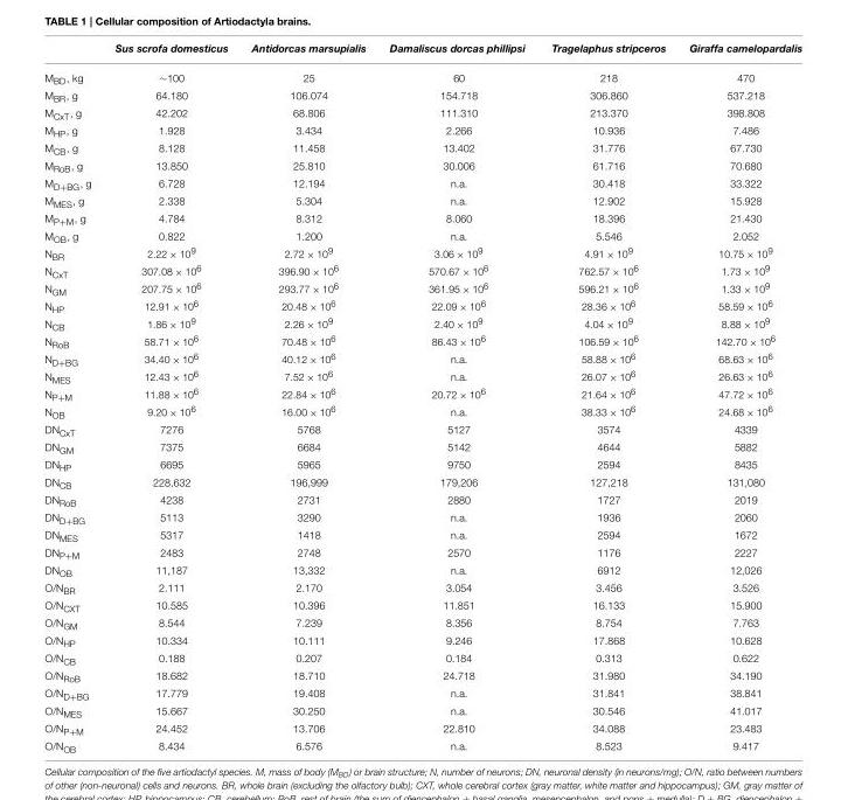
<table><thead><tr><td></td><td>Sus scrofa domesticus</td><td>Antidorcas marsupialis</td><td>Damaliscus dorcas phillipsi</td><td>Tragelaphus stripceros</td><td>Giraffa camelopardalis</td></tr></thead><tbody><tr><td>M<sub>BD</sub>, kg</td><td>∼100</td><td>25</td><td>60</td><td>218</td><td>470</td></tr><tr><td>M<sub>BR</sub>, g</td><td>64.180</td><td>106.074</td><td>154.718</td><td>306.860</td><td>537.218</td></tr><tr><td>M<sub>CxT</sub>, g</td><td>42.202</td><td>68.806</td><td>111.310</td><td>213.370</td><td>398.808</td></tr><tr><td>M<sub>HP</sub>, g</td><td>1.928</td><td>3.434</td><td>2.266</td><td>10.936</td><td>7.486</td></tr><tr><td>M<sub>CB</sub>, g</td><td>8.128</td><td>11.458</td><td>13.402</td><td>31.776</td><td>67.730</td></tr><tr><td>M<sub>RoB</sub>, g</td><td>13.850</td><td>25.810</td><td>30.006</td><td>61.716</td><td>70.680</td></tr><tr><td>M<sub>D+BG</sub>, g</td><td>6.728</td><td>12.194</td><td>n.a.</td><td>30.418</td><td>33.322</td></tr><tr><td>M<sub>MES</sub>, g</td><td>2.338</td><td>5.304</td><td>n.a.</td><td>12.902</td><td>15.928</td></tr><tr><td>M<sub>P+M</sub>, g</td><td>4.784</td><td>8.312</td><td>8.060</td><td>18.396</td><td>21.430</td></tr><tr><td>M<sub>OB</sub>, g</td><td>0.822</td><td>1.200</td><td>n.a.</td><td>5.546</td><td>2.052</td></tr><tr><td>N<sub>BR</sub></td><td>2.22 × 10<sup>9</sup></td><td>2.72 × 10<sup>9</sup></td><td>3.06 × 10<sup>9</sup></td><td>4.91 × 10<sup>9</sup></td><td>10.75 × 10<sup>9</sup></td></tr><tr><td>N<sub>CxT</sub></td><td>307.08 × 10<sup>6</sup></td><td>396.90 × 10<sup>6</sup></td><td>570.67 × 10<sup>6</sup></td><td>762.57 × 10<sup>6</sup></td><td>1.73 × 10<sup>9</sup></td></tr><tr><td>N<sub>GM</sub></td><td>207.75 × 10<sup>6</sup></td><td>293.77 × 10<sup>6</sup></td><td>361.95 × 10<sup>6</sup></td><td>596.21 × 10<sup>6</sup></td><td>1.33 × 10<sup>9</sup></td></tr><tr><td>N<sub>HP</sub></td><td>12.91 × 10<sup>6</sup></td><td>20.48 × 10<sup>6</sup></td><td>22.09 × 10<sup>6</sup></td><td>28.36 × 10<sup>6</sup></td><td>58.59 × 10<sup>6</sup></td></tr><tr><td>N<sub>CB</sub></td><td>1.86 × 10<sup>9</sup></td><td>2.26 × 10<sup>9</sup></td><td>2.40 × 10<sup>9</sup></td><td>4.04 × 10<sup>9</sup></td><td>8.88 × 10<sup>9</sup></td></tr><tr><td>N<sub>RoB</sub></td><td>58.71 × 10<sup>6</sup></td><td>70.48 × 10<sup>6</sup></td><td>86.43 × 10<sup>6</sup></td><td>106.59 × 10<sup>6</sup></td><td>142.70 × 10<sup>6</sup></td></tr><tr><td>N<sub>D+BG</sub></td><td>34.40 × 10<sup>6</sup></td><td>40.12 × 10<sup>6</sup></td><td>n.a.</td><td>58.88 × 10<sup>6</sup></td><td>68.63 × 10<sup>6</sup></td></tr><tr><td>N<sub>MES</sub></td><td>12.43 × 10<sup>6</sup></td><td>7.52 × 10<sup>6</sup></td><td>n.a.</td><td>26.07 × 10<sup>6</sup></td><td>26.63 × 10<sup>6</sup></td></tr><tr><td>N<sub>P+M</sub></td><td>11.88 × 10<sup>6</sup></td><td>22.84 × 10<sup>6</sup></td><td>20.72 × 10<sup>6</sup></td><td>21.64 × 10<sup>6</sup></td><td>47.72 × 10<sup>6</sup></td></tr><tr><td>N<sub>OB</sub></td><td>9.20 × 10<sup>6</sup></td><td>16.00 × 10<sup>6</sup></td><td>n.a.</td><td>38.33 × 10<sup>6</sup></td><td>24.68 × 10<sup>6</sup></td></tr><tr><td>DN<sub>CxT</sub></td><td>7276</td><td>5768</td><td>5127</td><td>3574</td><td>4339</td></tr><tr><td>DN<sub>GM</sub></td><td>7375</td><td>6684</td><td>5142</td><td>4644</td><td>5882</td></tr><tr><td>DN<sub>HP</sub></td><td>6695</td><td>5965</td><td>9750</td><td>2594</td><td>8435</td></tr><tr><td>DN<sub>CB</sub></td><td>228,632</td><td>196,999</td><td>179,206</td><td>127,218</td><td>131,080</td></tr><tr><td>DN<sub>RoB</sub></td><td>4238</td><td>2731</td><td>2880</td><td>1727</td><td>2019</td></tr><tr><td>DN<sub>D+BG</sub></td><td>5113</td><td>3290</td><td>n.a.</td><td>1936</td><td>2060</td></tr><tr><td>DN<sub>MES</sub></td><td>5317</td><td>1418</td><td>n.a.</td><td>2594</td><td>1672</td></tr><tr><td>DN<sub>P+M</sub></td><td>2483</td><td>2748</td><td>2570</td><td>1176</td><td>2227</td></tr><tr><td>DN<sub>OB</sub></td><td>11,187</td><td>13,332</td><td>n.a.</td><td>6912</td><td>12,026</td></tr><tr><td>O/N<sub>BR</sub></td><td>2.111</td><td>2.170</td><td>3.054</td><td>3.456</td><td>3.526</td></tr><tr><td>O/N<sub>CXT</sub></td><td>10.585</td><td>10.396</td><td>11.851</td><td>16.133</td><td>15.900</td></tr><tr><td>O/N<sub>GM</sub></td><td>8.544</td><td>7.239</td><td>8.356</td><td>8.754</td><td>7.763</td></tr><tr><td>O/N<sub>HP</sub></td><td>10.334</td><td>10.111</td><td>9.246</td><td>17.868</td><td>10.628</td></tr><tr><td>O/N<sub>CB</sub></td><td>0.188</td><td>0.207</td><td>0.184</td><td>0.313</td><td>0.622</td></tr><tr><td>O/N<sub>RoB</sub></td><td>18.682</td><td>18.710</td><td>24.718</td><td>31.980</td><td>34.190</td></tr><tr><td>O/N<sub>D+BG</sub></td><td>17.779</td><td>19.408</td><td>n.a.</td><td>31.841</td><td>38.841</td></tr><tr><td>O/N<sub>MES</sub></td><td>15.667</td><td>30.250</td><td>n.a.</td><td>30.546</td><td>41.017</td></tr><tr><td>O/N<sub>P+M</sub></td><td>24.452</td><td>13.706</td><td>22.810</td><td>34.088</td><td>23.483</td></tr><tr><td>O/N<sub>OB</sub></td><td>8.434</td><td>6.576</td><td>n.a.</td><td>8.523</td><td>9.417</td></tr></tbody></table>